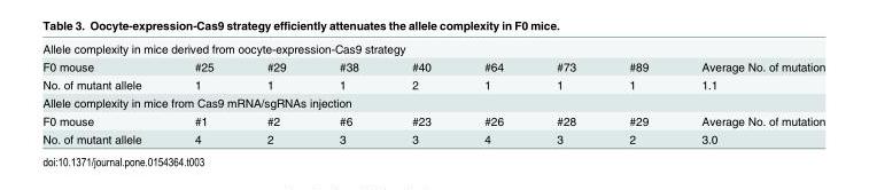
<table><tbody><tr><td colspan="9">Allele complexity in mice derived from oocyte-expression-Cas9 strategy</td></tr><tr><td>F0 mouse</td><td>#25</td><td>#29</td><td>#38</td><td>#40</td><td>#64</td><td>#73</td><td>#89</td><td>Average No. of mutation</td></tr><tr><td>No. of mutant allele</td><td>1</td><td>1</td><td>1</td><td>2</td><td>1</td><td>1</td><td>1</td><td>1.1</td></tr><tr><td colspan="9">Allele complexity in mice from Cas9 mRNA/sgRNAs injection</td></tr><tr><td>F0 mouse</td><td>#1</td><td>#2</td><td>#6</td><td>#23</td><td>#26</td><td>#28</td><td>#29</td><td>Average No. of mutation</td></tr><tr><td>No. of mutant allele</td><td>4</td><td>2</td><td>3</td><td>3</td><td>4</td><td>3</td><td>2</td><td>3.0</td></tr></tbody></table>